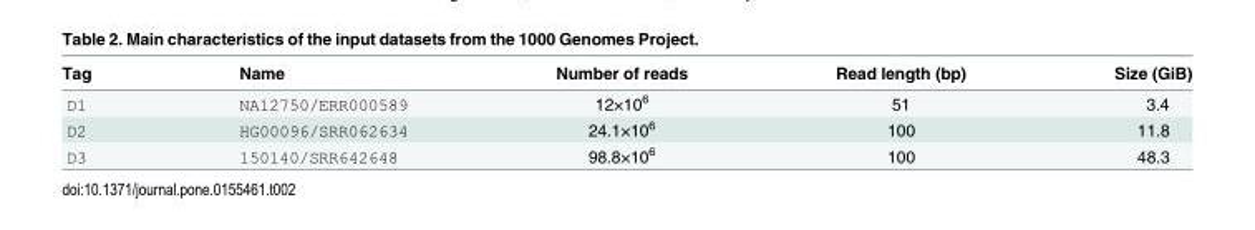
<table><thead><tr><td>Tag</td><td>Name</td><td>Number of reads</td><td>Read length (bp)</td><td>Size (GiB)</td></tr></thead><tbody><tr><td>D1</td><td>NA12750/ERR000589</td><td>12×10<sup>6</sup></td><td>51</td><td>3.4</td></tr><tr><td>D2</td><td>HG00096/SRR062634</td><td>24.1×10<sup>6</sup></td><td>100</td><td>11.8</td></tr><tr><td>D3</td><td>150140/SRR642648</td><td>98.8×10<sup>6</sup></td><td>100</td><td>48.3</td></tr></tbody></table>